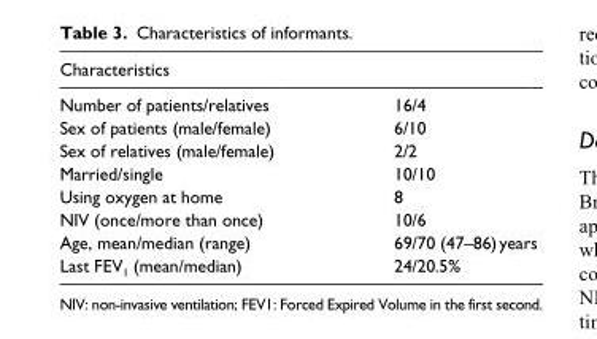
<table><thead><tr><td>Characteristics</td><td></td></tr></thead><tbody><tr><td>Number of patients/relatives</td><td>16/4</td></tr><tr><td>Sex of patients (male/female)</td><td>6/10</td></tr><tr><td>Sex of relatives (male/female)</td><td>2/2</td></tr><tr><td>Married/single</td><td>10/10</td></tr><tr><td>Using oxygen at home</td><td>8</td></tr><tr><td>NIV (once/more than once)</td><td>10/6</td></tr><tr><td>Age, mean/median (range)</td><td>69/70 (47–86) years</td></tr><tr><td>Last FEV<sub>1</sub> (mean/median)</td><td>24/20.5%</td></tr></tbody></table>